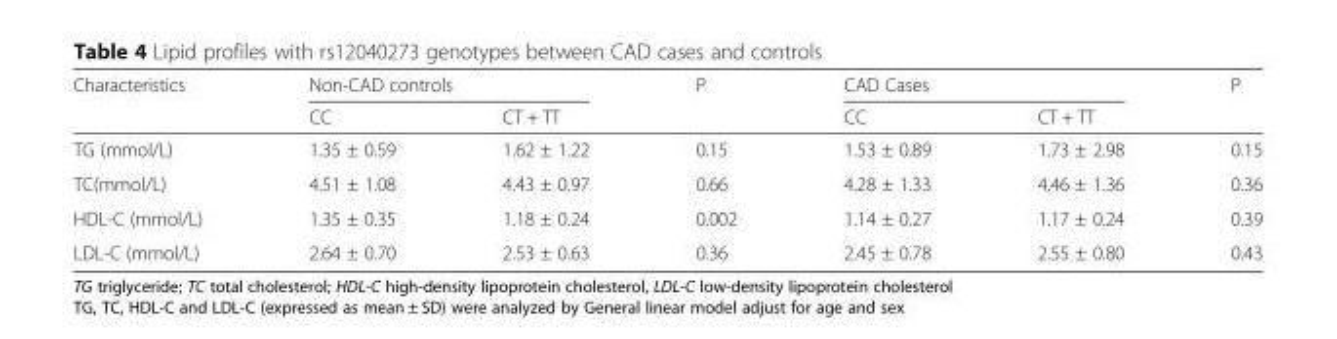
<table><thead><tr><td rowspan="2">Characteristics</td><td colspan="2">Non-CAD controls</td><td rowspan="2">P</td><td colspan="2">CAD Cases</td><td rowspan="2">P</td></tr><tr><td>CC</td><td>CT + TT</td><td>CC</td><td>CT + TT</td></tr></thead><tbody><tr><td>TG (mmol/L)</td><td>1.35 ± 0.59</td><td>1.62 ± 1.22</td><td>0.15</td><td>1.53 ± 0.89</td><td>1.73 ± 2.98</td><td>0.15</td></tr><tr><td>TC(mmol/L)</td><td>4.51 ± 1.08</td><td>4.43 ± 0.97</td><td>0.66</td><td>4.28 ± 1.33</td><td>4.46 ± 1.36</td><td>0.36</td></tr><tr><td>HDL-C (mmol/L)</td><td>1.35 ± 0.35</td><td>1.18 ± 0.24</td><td>0.002</td><td>1.14 ± 0.27</td><td>1.17 ± 0.24</td><td>0.39</td></tr><tr><td>LDL-C (mmol/L)</td><td>2.64 ± 0.70</td><td>2.53 ± 0.63</td><td>0.36</td><td>2.45 ± 0.78</td><td>2.55 ± 0.80</td><td>0.43</td></tr></tbody></table>